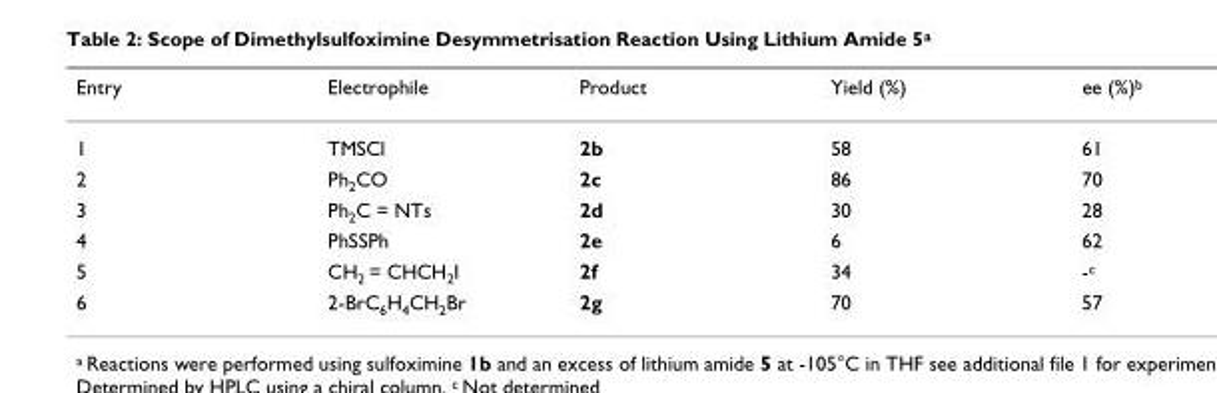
<table><thead><tr><td>Entry</td><td>Electrophile</td><td>Product</td><td>Yield (%)</td><td>ee (%)<sup>b</sup></td></tr></thead><tbody><tr><td>1</td><td>TMSCl</td><td>2b</td><td>58</td><td>61</td></tr><tr><td>2</td><td>Ph<sub>2</sub>CO</td><td>2c</td><td>86</td><td>70</td></tr><tr><td>3</td><td>Ph<sub>2</sub>C = NTs</td><td>2d</td><td>30</td><td>28</td></tr><tr><td>4</td><td>PhSSPh</td><td>2e</td><td>6</td><td>62</td></tr><tr><td>5</td><td>CH<sub>2</sub> = CHCH<sub>2</sub>I</td><td>2f</td><td>34</td><td>-<sup>c</sup></td></tr><tr><td>6</td><td>2-BrC<sub>6</sub>H<sub>4</sub>CH<sub>2</sub>Br</td><td>2g</td><td>70</td><td>57</td></tr></tbody></table>